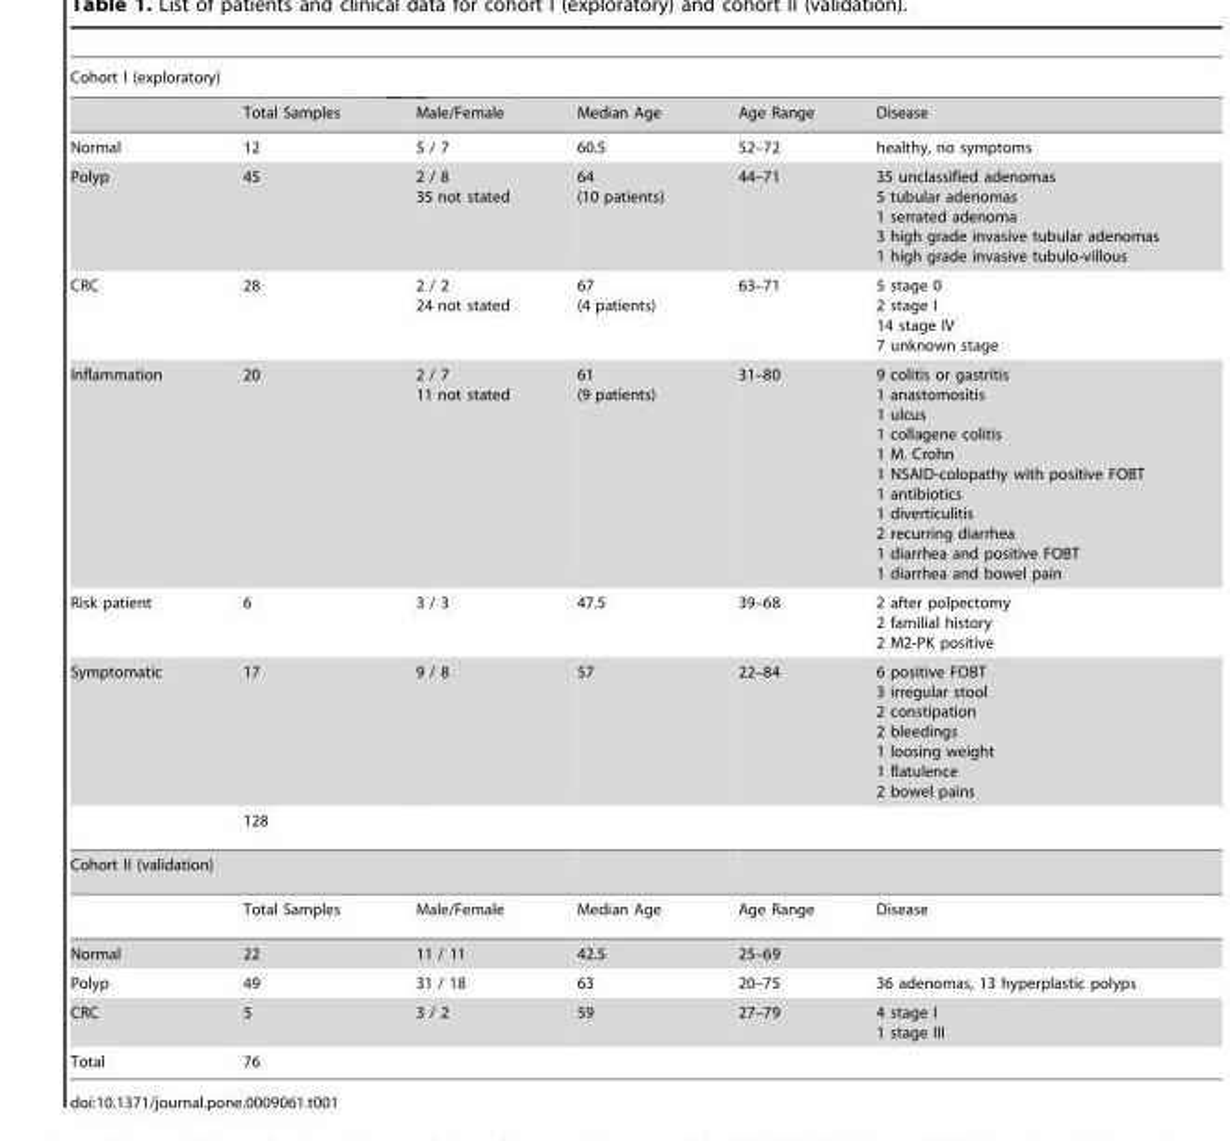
<table><thead><tr><td colspan="2">Cohort I (exploratory)</td><td rowspan="2">Male/Female</td><td rowspan="2">Median Age</td><td rowspan="2">Age Range</td><td rowspan="2">Disease</td></tr><tr><td></td><td>Total Samples</td></tr></thead><tbody><tr><td>Normal</td><td>12</td><td>5 / 7</td><td>60.5</td><td>52–72</td><td>healthy, no symptoms</td></tr><tr><td>Polyp</td><td>45</td><td>2 / 8 35 not stated</td><td>64 (10 patients)</td><td>44–71</td><td>35 unclassified adenomas 5 tubular adenomas 1 serrated adenoma 3 high grade invasive tubular adenomas 1 high grade invasive tubulo-villous</td></tr><tr><td>CRC</td><td>28</td><td>2 / 2 24 not stated</td><td>67 (4 patients)</td><td>63–71</td><td>5 stage 0 2 stage I 14 stage IV 7 unknown stage</td></tr><tr><td>Inflammation</td><td>20</td><td>2 / 7 11 not stated</td><td>61 (9 patients)</td><td>31–80</td><td>9 colitis or gastritis 1 anastomositis 1 ulcus 1 collagene colitis 1 M. Crohn 1 NSAID-colopathy with positive FOBT 1 antibiotics 1 diverticulitis 2 recurring diarrhea 1 diarrhea and positive FOBT 1 diarrhea and bowel pain</td></tr><tr><td>Risk patient</td><td>6</td><td>3 / 3</td><td>47.5</td><td>39–68</td><td>2 after polpectomy 2 familial history 2 M2-PK positive</td></tr><tr><td rowspan="2">Symptomatic</td><td>17</td><td>9 / 8</td><td>57</td><td>22–84</td><td>6 positive FOBT 3 irregular stool 2 constipation 2 bleedings 1 loosing weight 1 flatulence 2 bowel pains</td></tr><tr><td>128</td><td></td><td></td><td></td><td></td></tr><tr><td colspan="6">Cohort II (validation)</td></tr><tr><td></td><td>Total Samples</td><td>Male/Female</td><td>Median Age</td><td>Age Range</td><td>Disease</td></tr><tr><td>Normal</td><td>22</td><td>11 / 11</td><td>42.5</td><td>25–69</td><td></td></tr><tr><td>Polyp</td><td>49</td><td>31 / 18</td><td>63</td><td>20–75</td><td>36 adenomas, 13 hyperplastic polyps</td></tr><tr><td>CRC</td><td>5</td><td>3 / 2</td><td>59</td><td>27–79</td><td>4 stage I 1 stage III</td></tr><tr><td>Total</td><td>76</td><td></td><td></td><td></td><td></td></tr></tbody></table>